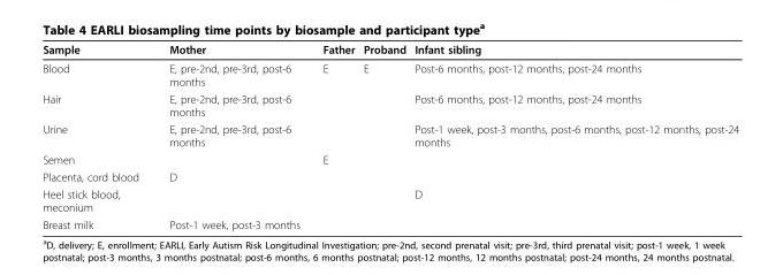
<table><thead><tr><td>Sample</td><td>Mother</td><td>Father</td><td>Proband</td><td>Infant sibling</td></tr></thead><tbody><tr><td>Blood</td><td>E, pre-2nd, pre-3rd, post-6 months</td><td>E</td><td>E</td><td>Post-6 months, post-12 months, post-24 months</td></tr><tr><td>Hair</td><td>E, pre-2nd, pre-3rd, post-6 months</td><td></td><td></td><td>Post-6 months, post-12 months, post-24 months</td></tr><tr><td>Urine</td><td>E, pre-2nd, pre-3rd, post-6 months</td><td></td><td></td><td>Post-1 week, post-3 months, post-6 months, post-12 months, post-24 months</td></tr><tr><td>Semen</td><td></td><td>E</td><td></td><td></td></tr><tr><td>Placenta, cord blood</td><td>D</td><td></td><td></td><td></td></tr><tr><td>Heel stick blood, meconium</td><td></td><td></td><td></td><td>D</td></tr><tr><td>Breast milk</td><td>Post-1 week, post-3 months</td><td></td><td></td><td></td></tr></tbody></table>